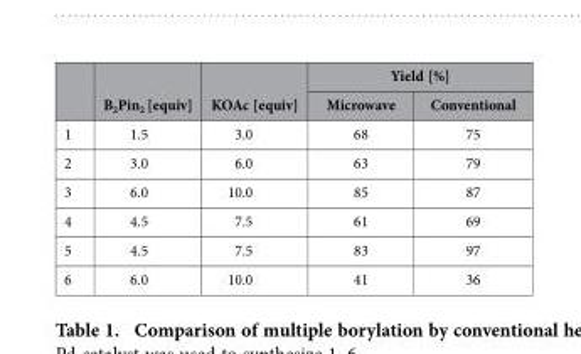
<table><thead><tr><td rowspan="2"></td><td rowspan="2">B<sub>2</sub>Pin<sub>2</sub> [equiv]</td><td rowspan="2">KOAc [equiv]</td><td colspan="2">Yield [%]</td></tr><tr><td>Microwave</td><td>Conventional</td></tr></thead><tbody><tr><td>1</td><td>1.5</td><td>3.0</td><td>68</td><td>75</td></tr><tr><td>2</td><td>3.0</td><td>6.0</td><td>63</td><td>79</td></tr><tr><td>3</td><td>6.0</td><td>10.0</td><td>85</td><td>87</td></tr><tr><td>4</td><td>4.5</td><td>7.5</td><td>61</td><td>69</td></tr><tr><td>5</td><td>4.5</td><td>7.5</td><td>83</td><td>97</td></tr><tr><td>6</td><td>6.0</td><td>10.0</td><td>41</td><td>36</td></tr></tbody></table>